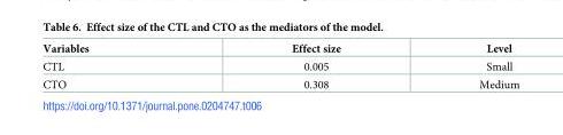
<table><thead><tr><td>Variables</td><td>Effect size</td><td>Level</td></tr></thead><tbody><tr><td>CTL</td><td>0.005</td><td>Small</td></tr><tr><td>CTO</td><td>0.308</td><td>Medium</td></tr></tbody></table>